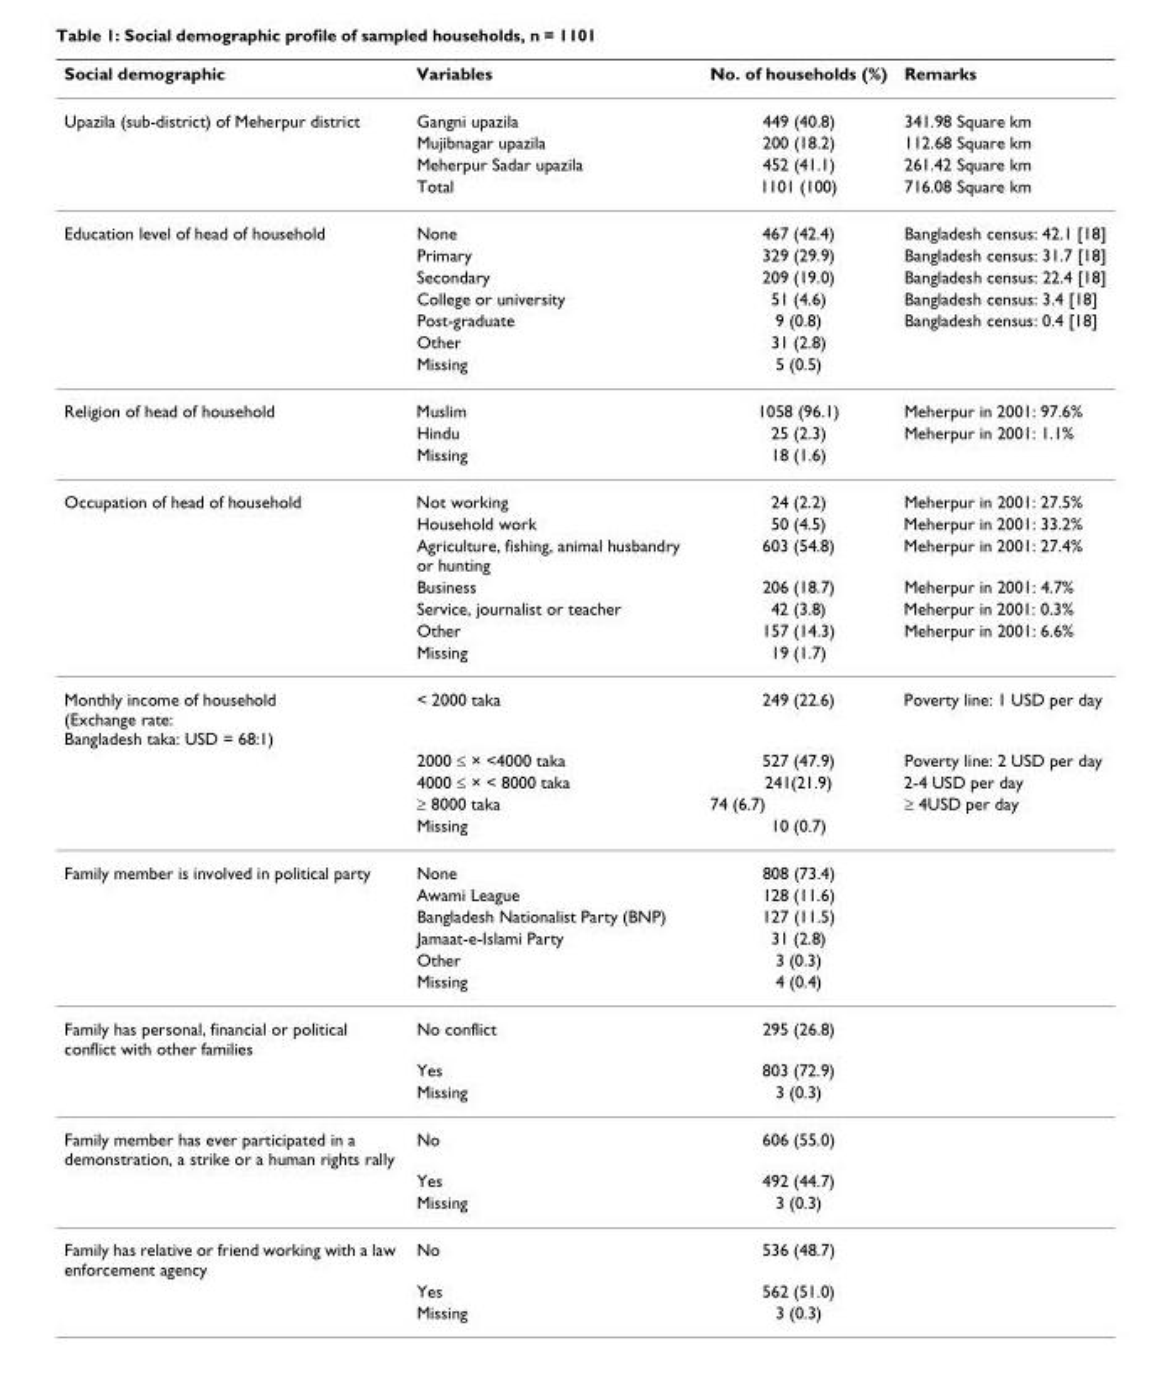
<table><thead><tr><td>Social demographic</td><td>Variables</td><td>No. of households (%)</td><td>Remarks</td></tr></thead><tbody><tr><td rowspan="4">Upazila (sub-district) of Meherpur district</td><td>Gangni upazila</td><td>449 (40.8)</td><td>341.98 Square km</td></tr><tr><td>Mujibnagar upazila</td><td>200 (18.2)</td><td>112.68 Square km</td></tr><tr><td>Meherpur Sadar upazila</td><td>452 (41.1)</td><td>261.42 Square km</td></tr><tr><td>Total</td><td>1101 (100)</td><td>716.08 Square km</td></tr><tr><td rowspan="7">Education level of head of household</td><td>None</td><td>467 (42.4)</td><td>Bangladesh census: 42.1 [18]</td></tr><tr><td>Primary</td><td>329 (29.9)</td><td>Bangladesh census: 31.7 [18]</td></tr><tr><td>Secondary</td><td>209 (19.0)</td><td>Bangladesh census: 22.4 [18]</td></tr><tr><td>College or university</td><td>51 (4.6)</td><td>Bangladesh census: 3.4 [18]</td></tr><tr><td>Post-graduate</td><td>9 (0.8)</td><td>Bangladesh census: 0.4 [18]</td></tr><tr><td>Other</td><td>31 (2.8)</td><td></td></tr><tr><td>Missing</td><td>5 (0.5)</td><td></td></tr><tr><td rowspan="3">Religion of head of household</td><td>Muslim</td><td>1058 (96.1)</td><td>Meherpur in 2001: 97.6%</td></tr><tr><td>Hindu</td><td>25 (2.3)</td><td>Meherpur in 2001: 1.1%</td></tr><tr><td>Missing</td><td>18 (1.6)</td><td></td></tr><tr><td rowspan="7">Occupation of head of household</td><td>Not working</td><td>24 (2.2)</td><td>Meherpur in 2001: 27.5%</td></tr><tr><td>Household work</td><td>50 (4.5)</td><td>Meherpur in 2001: 33.2%</td></tr><tr><td>Agriculture, fishing, animal husbandry or hunting</td><td>603 (54.8)</td><td>Meherpur in 2001: 27.4%</td></tr><tr><td>Business</td><td>206 (18.7)</td><td>Meherpur in 2001: 4.7%</td></tr><tr><td>Service, journalist or teacher</td><td>42 (3.8)</td><td>Meherpur in 2001: 0.3%</td></tr><tr><td>Other</td><td>157 (14.3)</td><td>Meherpur in 2001: 6.6%</td></tr><tr><td>Missing</td><td>19 (1.7)</td><td></td></tr><tr><td rowspan="5">Monthly income of household (Exchange rate: Bangladesh taka: USD = 68:1)</td><td>&lt; 2000 taka</td><td>249 (22.6)</td><td>Poverty line: 1 USD per day</td></tr><tr><td>2000 ≤ × &lt;4000 taka</td><td>527 (47.9)</td><td>Poverty line: 2 USD per day</td></tr><tr><td>4000 ≤ × &lt; 8000 taka</td><td>241(21.9)</td><td>2-4 USD per day</td></tr><tr><td>≥ 8000 taka</td><td>74 (6.7)</td><td>≥ 4USD per day</td></tr><tr><td>Missing</td><td>10 (0.7)</td><td></td></tr><tr><td rowspan="6">Family member is involved in political party</td><td>None</td><td>808 (73.4)</td><td></td></tr><tr><td>Awami League</td><td>128 (11.6)</td><td></td></tr><tr><td>Bangladesh Nationalist Party (BNP)</td><td>127 (11.5)</td><td></td></tr><tr><td>Jamaat-e-Islami Party</td><td>31 (2.8)</td><td></td></tr><tr><td>Other</td><td>3 (0.3)</td><td></td></tr><tr><td>Missing</td><td>4 (0.4)</td><td></td></tr><tr><td rowspan="3">Family has personal, financial or political conflict with other families</td><td>No conflict</td><td>295 (26.8)</td><td></td></tr><tr><td>Yes</td><td>803 (72.9)</td><td></td></tr><tr><td>Missing</td><td>3 (0.3)</td><td></td></tr><tr><td rowspan="3">Family member has ever participated in a demonstration, a strike or a human rights rally</td><td>No</td><td>606 (55.0)</td><td></td></tr><tr><td>Yes</td><td>492 (44.7)</td><td></td></tr><tr><td>Missing</td><td>3 (0.3)</td><td></td></tr><tr><td rowspan="3">Family has relative or friend working with a law enforcement agency</td><td>No</td><td>536 (48.7)</td><td></td></tr><tr><td>Yes</td><td>562 (51.0)</td><td></td></tr><tr><td>Missing</td><td>3 (0.3)</td><td></td></tr></tbody></table>